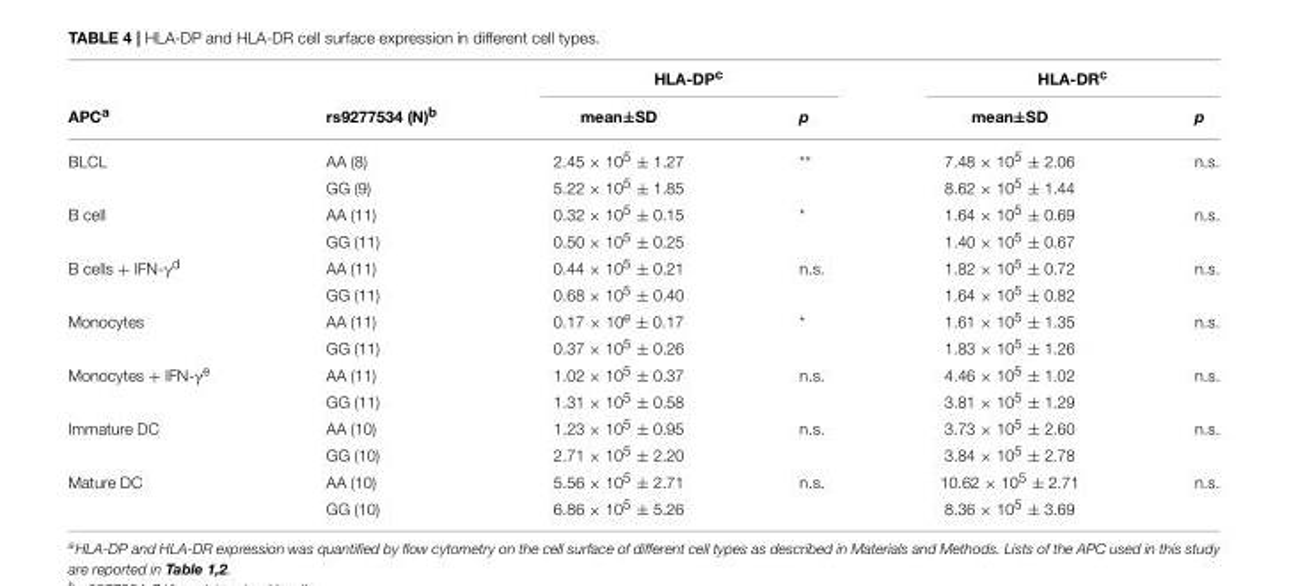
<table><thead><tr><td rowspan="2">APC<sup>a</sup></td><td rowspan="2">rs9277534 (N)<sup>b</sup></td><td colspan="2">HLA-DP<sup>c</sup></td><td colspan="2">HLA-DR<sup>c</sup></td></tr><tr><td>mean±SD</td><td>p</td><td>mean±SD</td><td>p</td></tr></thead><tbody><tr><td rowspan="2">BLCL</td><td>AA (8)</td><td>2.45 × 10<sup>5</sup> ± 1.27</td><td>**</td><td>7.48 × 10<sup>5</sup> ± 2.06</td><td>n.s.</td></tr><tr><td>GG (9)</td><td>5.22 × 10<sup>5</sup> ± 1.85</td><td></td><td>8.62 × 10<sup>5</sup> ± 1.44</td><td></td></tr><tr><td rowspan="2">B cell</td><td>AA (11)</td><td>0.32 × 10<sup>5</sup> ± 0.15</td><td>*</td><td>1.64 × 10<sup>5</sup> ± 0.69</td><td>n.s.</td></tr><tr><td>GG (11)</td><td>0.50 × 10<sup>5</sup> ± 0.25</td><td></td><td>1.40 × 10<sup>5</sup> ± 0.67</td><td></td></tr><tr><td rowspan="2">B cells + IFN-γ<sup>d</sup></td><td>AA (11)</td><td>0.44 × 10<sup>5</sup> ± 0.21</td><td>n.s.</td><td>1.82 × 10<sup>5</sup> ± 0.72</td><td>n.s.</td></tr><tr><td>GG (11)</td><td>0.68 × 10<sup>5</sup> ± 0.40</td><td></td><td>1.64 × 10<sup>5</sup> ± 0.82</td><td></td></tr><tr><td rowspan="2">Monocytes</td><td>AA (11)</td><td>0.17 × 10<sup>e</sup> ± 0.17</td><td>*</td><td>1.61 × 10<sup>5</sup> ± 1.35</td><td>n.s.</td></tr><tr><td>GG (11)</td><td>0.37 × 10<sup>5</sup> ± 0.26</td><td></td><td>1.83 × 10<sup>5</sup> ± 1.26</td><td></td></tr><tr><td rowspan="2">Monocytes + IFN-γ<sup>e</sup></td><td>AA (11)</td><td>1.02 × 10<sup>5</sup> ± 0.37</td><td>n.s.</td><td>4.46 × 10<sup>5</sup> ± 1.02</td><td>n.s.</td></tr><tr><td>GG (11)</td><td>1.31 × 10<sup>5</sup> ± 0.58</td><td></td><td>3.81 × 10<sup>5</sup> ± 1.29</td><td></td></tr><tr><td rowspan="2">Immature DC</td><td>AA (10)</td><td>1.23 × 10<sup>5</sup> ± 0.95</td><td>n.s.</td><td>3.73 × 10<sup>5</sup> ± 2.60</td><td>n.s.</td></tr><tr><td>GG (10)</td><td>2.71 × 10<sup>5</sup> ± 2.20</td><td></td><td>3.84 × 10<sup>5</sup> ± 2.78</td><td></td></tr><tr><td rowspan="2">Mature DC</td><td>AA (10)</td><td>5.56 × 10<sup>5</sup> ± 2.71</td><td>n.s.</td><td>10.62 × 10<sup>5</sup> ± 2.71</td><td>n.s.</td></tr><tr><td>GG (10)</td><td>6.86 × 10<sup>5</sup> ± 5.26</td><td></td><td>8.36 × 10<sup>5</sup> ± 3.69</td><td></td></tr></tbody></table>